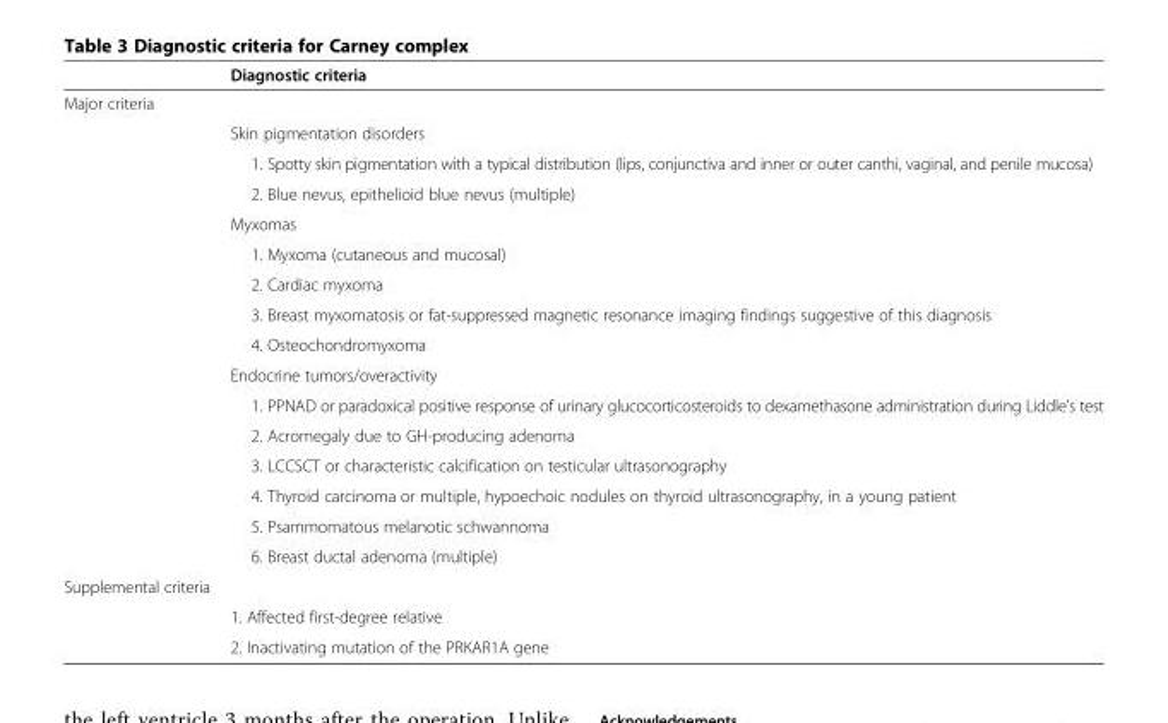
<table><thead><tr><td></td><td>Diagnostic criteria</td></tr></thead><tbody><tr><td colspan="2">Major criteria</td></tr><tr><td rowspan="15"></td><td>Skin pigmentation disorders</td></tr><tr><td>1. Spotty skin pigmentation with a typical distribution (lips, conjunctiva and inner or outer canthi, vaginal, and penile mucosa)</td></tr><tr><td>2. Blue nevus, epithelioid blue nevus (multiple)</td></tr><tr><td>Myxomas</td></tr><tr><td>1. Myxoma (cutaneous and mucosal)</td></tr><tr><td>2. Cardiac myxoma</td></tr><tr><td>3. Breast myxomatosis or fat-suppressed magnetic resonance imaging findings suggestive of this diagnosis</td></tr><tr><td>4. Osteochondromyxoma</td></tr><tr><td>Endocrine tumors/overactivity</td></tr><tr><td>1. PPNAD or paradoxical positive response of urinary glucocorticosteroids to dexamethasone administration during Liddle’s test</td></tr><tr><td>2. Acromegaly due to GH-producing adenoma</td></tr><tr><td>3. LCCSCT or characteristic calcification on testicular ultrasonography</td></tr><tr><td>4. Thyroid carcinoma or multiple, hypoechoic nodules on thyroid ultrasonography, in a young patient</td></tr><tr><td>5. Psammomatous melanotic schwannoma</td></tr><tr><td>6. Breast ductal adenoma (multiple)</td></tr><tr><td colspan="2">Supplemental criteria</td></tr><tr><td rowspan="2"></td><td>1. Affected first-degree relative</td></tr><tr><td>2. Inactivating mutation of the PRKAR1A gene</td></tr></tbody></table>